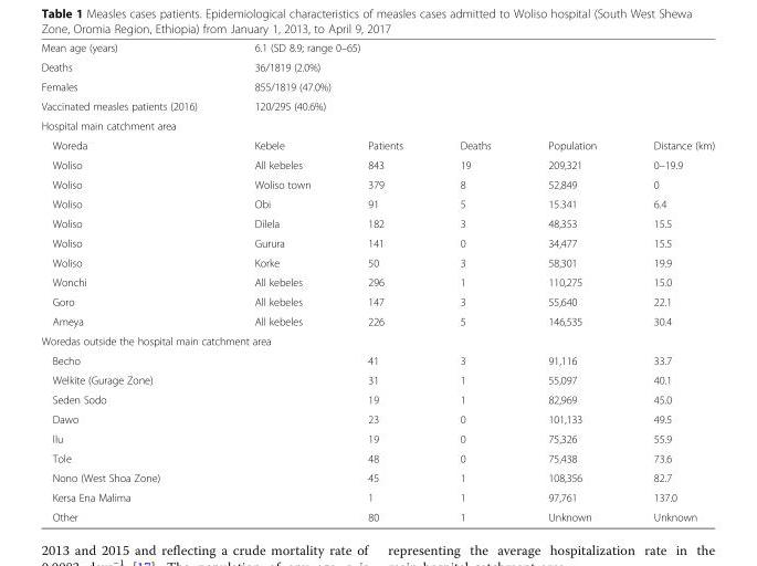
<table><tbody><tr><td>Mean age (years)</td><td colspan="5">6.1 (SD 8.9; range 0–65)</td></tr><tr><td>Deaths</td><td colspan="5">36/1819 (2.0%)</td></tr><tr><td>Females</td><td colspan="5">855/1819 (47.0%)</td></tr><tr><td>Vaccinated measles patients (2016)</td><td colspan="5">120/295 (40.6%)</td></tr><tr><td colspan="6">Hospital main catchment area</td></tr><tr><td>Woreda</td><td>Kebele</td><td>Patients</td><td>Deaths</td><td>Population</td><td>Distance (km)</td></tr><tr><td>Woliso</td><td>All kebeles</td><td>843</td><td>19</td><td>209,321</td><td>0–19.9</td></tr><tr><td>Woliso</td><td>Woliso town</td><td>379</td><td>8</td><td>52,849</td><td>0</td></tr><tr><td>Woliso</td><td>Obi</td><td>91</td><td>5</td><td>15.341</td><td>6.4</td></tr><tr><td>Woliso</td><td>Dilela</td><td>182</td><td>3</td><td>48,353</td><td>15.5</td></tr><tr><td>Woliso</td><td>Gurura</td><td>141</td><td>0</td><td>34,477</td><td>15.5</td></tr><tr><td>Woliso</td><td>Korke</td><td>50</td><td>3</td><td>58,301</td><td>19.9</td></tr><tr><td>Wonchi</td><td>All kebeles</td><td>296</td><td>1</td><td>110,275</td><td>15.0</td></tr><tr><td>Goro</td><td>All kebeles</td><td>147</td><td>3</td><td>55,640</td><td>22.1</td></tr><tr><td>Ameya</td><td>All kebeles</td><td>226</td><td>5</td><td>146,535</td><td>30.4</td></tr><tr><td colspan="6">Woredas outside the hospital main catchment area</td></tr><tr><td colspan="2">Becho</td><td>41</td><td>3</td><td>91,116</td><td>33.7</td></tr><tr><td colspan="2">Welkite (Gurage Zone)</td><td>31</td><td>1</td><td>55,097</td><td>40.1</td></tr><tr><td colspan="2">Seden Sodo</td><td>19</td><td>1</td><td>82,969</td><td>45.0</td></tr><tr><td colspan="2">Dawo</td><td>23</td><td>0</td><td>101,133</td><td>49.5</td></tr><tr><td colspan="2">Ilu</td><td>19</td><td>0</td><td>75,326</td><td>55.9</td></tr><tr><td colspan="2">Tole</td><td>48</td><td>0</td><td>75,438</td><td>73.6</td></tr><tr><td colspan="2">Nono (West Shoa Zone)</td><td>45</td><td>1</td><td>108,356</td><td>82.7</td></tr><tr><td colspan="2">Kersa Ena Malima</td><td>1</td><td>1</td><td>97,761</td><td>137.0</td></tr><tr><td colspan="2">Other</td><td>80</td><td>1</td><td>Unknown</td><td>Unknown</td></tr></tbody></table>